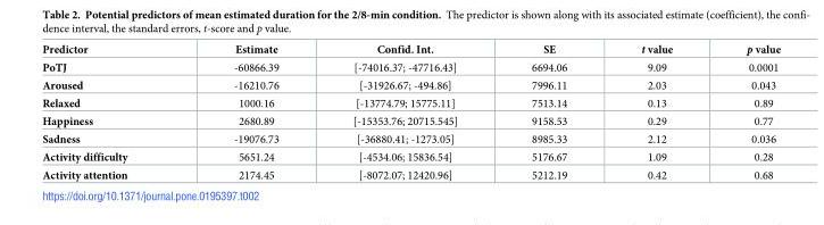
<table><thead><tr><td>Predictor</td><td>Estimate</td><td>Confid. Int.</td><td>SE</td><td>t value</td><td>p value</td></tr></thead><tbody><tr><td>PoTJ</td><td>-60866.39</td><td>[-74016.37; -47716.43]</td><td>6694.06</td><td>9.09</td><td>0.0001</td></tr><tr><td>Aroused</td><td>-16210.76</td><td>[-31926.67; -494.86]</td><td>7996.11</td><td>2.03</td><td>0.043</td></tr><tr><td>Relaxed</td><td>1000.16</td><td>[-13774.79; 15775.11]</td><td>7513.14</td><td>0.13</td><td>0.89</td></tr><tr><td>Happiness</td><td>2680.89</td><td>[-15353.76; 20715.545]</td><td>9158.53</td><td>0.29</td><td>0.77</td></tr><tr><td>Sadness</td><td>-19076.73</td><td>[-36880.41; -1273.05]</td><td>8985.33</td><td>2.12</td><td>0.036</td></tr><tr><td>Activity difficulty</td><td>5651.24</td><td>[-4534.06; 15836.54]</td><td>5176.67</td><td>1.09</td><td>0.28</td></tr><tr><td>Activity attention</td><td>2174.45</td><td>[-8072.07; 12420.96]</td><td>5212.19</td><td>0.42</td><td>0.68</td></tr></tbody></table>